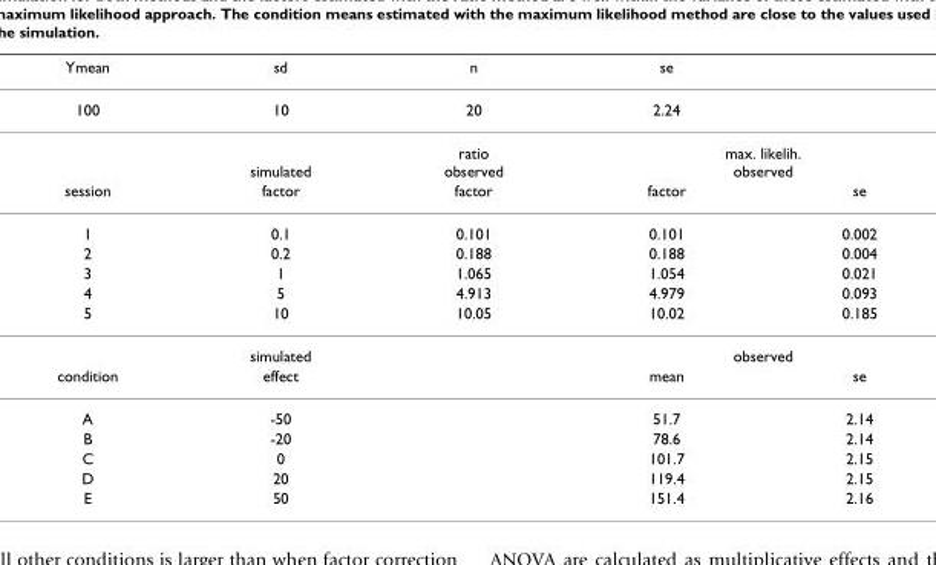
<table><thead><tr><td>Ymean</td><td>sd</td><td>n</td><td>se</td><td></td></tr></thead><tbody><tr><td rowspan="2">100</td><td>10</td><td>20</td><td>2.24</td><td></td></tr><tr><td>simulated</td><td>ratio observed</td><td colspan="2">max. likelih. observed</td></tr><tr><td>session</td><td>factor</td><td>factor</td><td>factor</td><td>se</td></tr><tr><td>1</td><td>0.1</td><td>0.101</td><td>0.101</td><td>0.002</td></tr><tr><td>2</td><td>0.2</td><td>0.188</td><td>0.188</td><td>0.004</td></tr><tr><td>3</td><td>1</td><td>1.065</td><td>1.054</td><td>0.021</td></tr><tr><td>4</td><td>5</td><td>4.913</td><td>4.979</td><td>0.093</td></tr><tr><td rowspan="2">5</td><td>10</td><td>10.05</td><td>10.02</td><td>0.185</td></tr><tr><td>simulated</td><td></td><td colspan="2">observed</td></tr><tr><td>condition</td><td>effect</td><td></td><td>mean</td><td>se</td></tr><tr><td>A</td><td>-50</td><td></td><td>51.7</td><td>2.14</td></tr><tr><td>B</td><td>-20</td><td></td><td>78.6</td><td>2.14</td></tr><tr><td>C</td><td>0</td><td></td><td>101.7</td><td>2.15</td></tr><tr><td>D</td><td>20</td><td></td><td>119.4</td><td>2.15</td></tr><tr><td>E</td><td>50</td><td></td><td>151.4</td><td>2.16</td></tr></tbody></table>